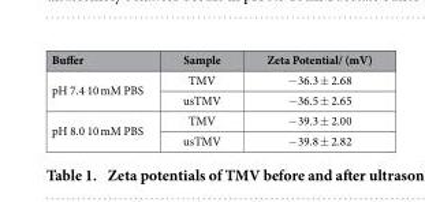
<table><thead><tr><td>Buffer</td><td>Sample</td><td>Zeta Potential/ (mV)</td></tr></thead><tbody><tr><td rowspan="2">pH 7.4 10 mM PBS</td><td>TMV</td><td>− 36.3 ± 2.68</td></tr><tr><td>usTMV</td><td>− 36.5 ± 2.65</td></tr><tr><td rowspan="2">pH 8.0 10 mM PBS</td><td>TMV</td><td>− 39.3 ± 2.00</td></tr><tr><td>usTMV</td><td>− 39.8 ± 2.82</td></tr></tbody></table>